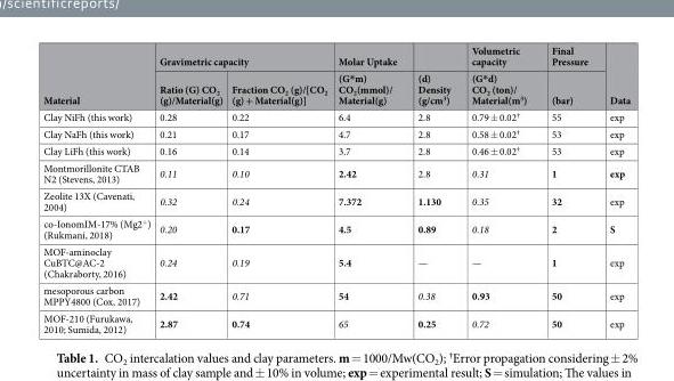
<table><thead><tr><td rowspan="2">Material</td><td colspan="2">Gravimetric capacity</td><td rowspan="2">Molar Uptake (G*m) CO<sub>2</sub>(mmol)/ Material(g)</td><td rowspan="2">(d) Density (g/cm<sup>3</sup>)</td><td rowspan="2">Volumetric capacity (G*d) CO<sub>2</sub> (ton)/ Material(m<sup>3</sup>)</td><td rowspan="2">Final Pressure (bar)</td><td rowspan="2">Data</td></tr><tr><td>Ratio (G) CO<sub>2</sub> (g)/Material(g)</td><td>Fraction CO<sub>2</sub> (g)/[CO<sub>2</sub> (g) + Material(g)]</td></tr></thead><tbody><tr><td>Clay NiFh (this work)</td><td>0.28</td><td>0.22</td><td>6.4</td><td>2.8</td><td>0.79 ± 0.02<sup>†</sup></td><td>55</td><td>exp</td></tr><tr><td>Clay NaFh (this work)</td><td>0.21</td><td>0.17</td><td>4.7</td><td>2.8</td><td>0.58 ± 0.02<sup>†</sup></td><td>53</td><td>exp</td></tr><tr><td>Clay LiFh (this work)</td><td>0.16</td><td>0.14</td><td>3.7</td><td>2.8</td><td>0.46 ± 0.02<sup>†</sup></td><td>53</td><td>exp</td></tr><tr><td>Montmorillonite CTAB N2 (Stevens, 2013)</td><td>0.11</td><td>0.10</td><td>2.42</td><td>2.8</td><td>0.31</td><td>1</td><td>exp</td></tr><tr><td>Zeolite 13X (Cavenati, 2004)</td><td>0.32</td><td>0.24</td><td>7.372</td><td>1.130</td><td>0.35</td><td>32</td><td>exp</td></tr><tr><td>co-IonomIM-17% (Mg2<sup>+</sup>) (Rukmani, 2018)</td><td>0.20</td><td>0.17</td><td>4.5</td><td>0.89</td><td>0.18</td><td>2</td><td>S</td></tr><tr><td>MOF-aminoclay CuBTC@AC-2 (Chakraborty, 2016)</td><td>0.24</td><td>0.19</td><td>5.4</td><td>—</td><td>—</td><td>1</td><td>exp</td></tr><tr><td>mesoporous carbon MPPY4800 (Cox, 2017)</td><td>2.42</td><td>0.71</td><td>54</td><td>0.38</td><td>0.93</td><td>50</td><td>exp</td></tr><tr><td>MOF-210 (Furukawa, 2010; Sumida, 2012)</td><td>2.87</td><td>0.74</td><td>65</td><td>0.25</td><td>0.72</td><td>50</td><td>exp</td></tr></tbody></table>